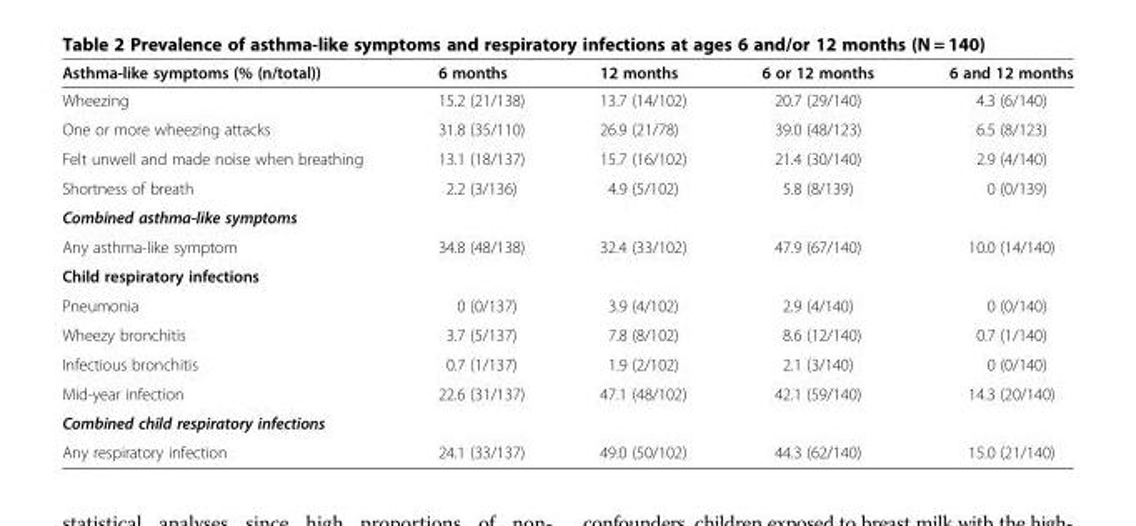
<table><thead><tr><td>Asthma-like symptoms (% (n/total))</td><td>6 months</td><td>12 months</td><td>6 or 12 months</td><td>6 and 12 months</td></tr></thead><tbody><tr><td>Wheezing</td><td>15.2 (21/138)</td><td>13.7 (14/102)</td><td>20.7 (29/140)</td><td>4.3 (6/140)</td></tr><tr><td>One or more wheezing attacks</td><td>31.8 (35/110)</td><td>26.9 (21/78)</td><td>39.0 (48/123)</td><td>6.5 (8/123)</td></tr><tr><td>Felt unwell and made noise when breathing</td><td>13.1 (18/137)</td><td>15.7 (16/102)</td><td>21.4 (30/140)</td><td>2.9 (4/140)</td></tr><tr><td>Shortness of breath</td><td>2.2 (3/136)</td><td>4.9 (5/102)</td><td>5.8 (8/139)</td><td>0 (0/139)</td></tr><tr><td colspan="5">Combined asthma-like symptoms</td></tr><tr><td>Any asthma-like symptom</td><td>34.8 (48/138)</td><td>32.4 (33/102)</td><td>47.9 (67/140)</td><td>10.0 (14/140)</td></tr><tr><td colspan="5">Child respiratory infections</td></tr><tr><td>Pneumonia</td><td>0 (0/137)</td><td>3.9 (4/102)</td><td>2.9 (4/140)</td><td>0 (0/140)</td></tr><tr><td>Wheezy bronchitis</td><td>3.7 (5/137)</td><td>7.8 (8/102)</td><td>8.6 (12/140)</td><td>0.7 (1/140)</td></tr><tr><td>Infectious bronchitis</td><td>0.7 (1/137)</td><td>1.9 (2/102)</td><td>2.1 (3/140)</td><td>0 (0/140)</td></tr><tr><td>Mid-year infection</td><td>22.6 (31/137)</td><td>47.1 (48/102)</td><td>42.1 (59/140)</td><td>14.3 (20/140)</td></tr><tr><td colspan="5">Combined child respiratory infections</td></tr><tr><td>Any respiratory infection</td><td>24.1 (33/137)</td><td>49.0 (50/102)</td><td>44.3 (62/140)</td><td>15.0 (21/140)</td></tr></tbody></table>